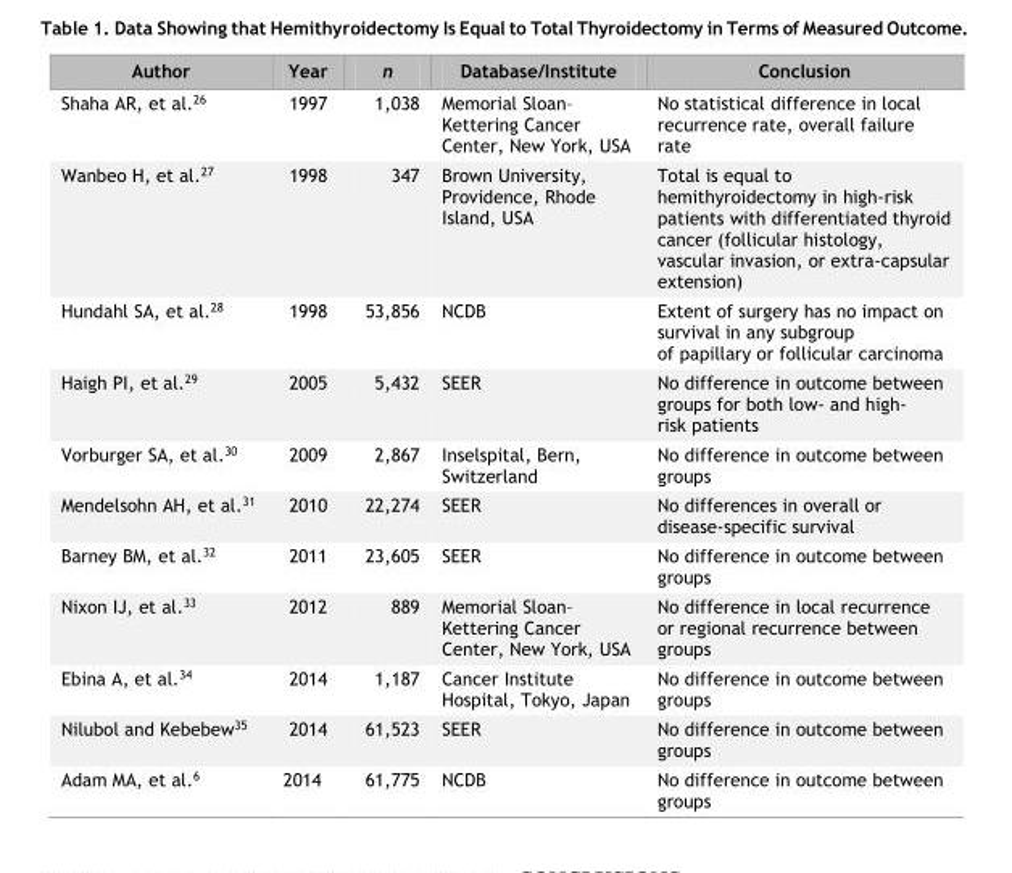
<table><thead><tr><td>Author</td><td>Year</td><td>n</td><td>Database/Institute</td><td>Conclusion</td></tr></thead><tbody><tr><td>Shaha AR, et al.<sup>26</sup></td><td>1997</td><td>1,038</td><td>Memorial Sloan– Kettering Cancer Center, New York, USA</td><td>No statistical difference in local recurrence rate, overall failure rate</td></tr><tr><td>Wanbeo H, et al.<sup>27</sup></td><td>1998</td><td>347</td><td>Brown University, Providence, Rhode Island, USA</td><td>Total is equal to hemithyroidectomy in high-risk patients with differentiated thyroid cancer (follicular histology, vascular invasion, or extra-capsular extension)</td></tr><tr><td>Hundahl SA, et al.<sup>28</sup></td><td>1998</td><td>53,856</td><td>NCDB</td><td>Extent of surgery has no impact on survival in any subgroup of papillary or follicular carcinoma</td></tr><tr><td>Haigh PI, et al.<sup>29</sup></td><td>2005</td><td>5,432</td><td>SEER</td><td>No difference in outcome between groups for both low- and high- risk patients</td></tr><tr><td>Vorburger SA, et al.<sup>30</sup></td><td>2009</td><td>2,867</td><td>Inselspital, Bern, Switzerland</td><td>No difference in outcome between groups</td></tr><tr><td>Mendelsohn AH, et al.<sup>31</sup></td><td>2010</td><td>22,274</td><td>SEER</td><td>No differences in overall or disease-specific survival</td></tr><tr><td>Barney BM, et al.<sup>32</sup></td><td>2011</td><td>23,605</td><td>SEER</td><td>No difference in outcome between groups</td></tr><tr><td>Nixon IJ, et al.<sup>33</sup></td><td>2012</td><td>889</td><td>Memorial Sloan– Kettering Cancer Center, New York, USA</td><td>No difference in local recurrence or regional recurrence between groups</td></tr><tr><td>Ebina A, et al.<sup>34</sup></td><td>2014</td><td>1,187</td><td>Cancer Institute Hospital, Tokyo, Japan</td><td>No difference in outcome between groups</td></tr><tr><td>Nilubol and Kebebew<sup>35</sup></td><td>2014</td><td>61,523</td><td>SEER</td><td>No difference in outcome between groups</td></tr><tr><td>Adam MA, et al.<sup>6</sup></td><td>2014</td><td>61,775</td><td>NCDB</td><td>No difference in outcome between groups</td></tr></tbody></table>